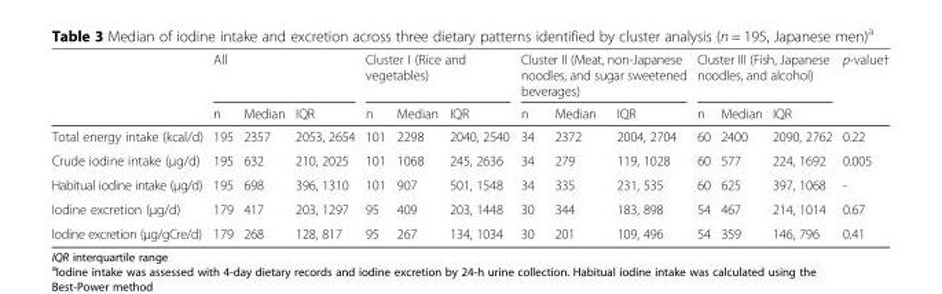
<table><thead><tr><td rowspan="2"></td><td colspan="3">All</td><td colspan="3">Cluster I (Rice and vegetables)</td><td colspan="3">Cluster II (Meat, non-Japanese noodles, and sugar sweetened beverages)</td><td colspan="3">Cluster III (Fish, Japanese noodles, and alcohol)</td><td rowspan="2">p-value†</td></tr><tr><td>n</td><td>Median</td><td>IQR</td><td>n</td><td>Median</td><td>IQR</td><td>n</td><td>Median</td><td>IQR</td><td>n</td><td>Median</td><td>IQR</td></tr></thead><tbody><tr><td>Total energy intake (kcal/d)</td><td>195</td><td>2357</td><td>2053, 2654</td><td>101</td><td>2298</td><td>2040, 2540</td><td>34</td><td>2372</td><td>2004, 2704</td><td>60</td><td>2400</td><td>2090, 2762</td><td>0.22</td></tr><tr><td>Crude iodine intake (μg/d)</td><td>195</td><td>632</td><td>210, 2025</td><td>101</td><td>1068</td><td>245, 2636</td><td>34</td><td>279</td><td>119, 1028</td><td>60</td><td>577</td><td>224, 1692</td><td>0.005</td></tr><tr><td>Habitual iodine intake (μg/d)</td><td>195</td><td>698</td><td>396, 1310</td><td>101</td><td>907</td><td>501, 1548</td><td>34</td><td>335</td><td>231, 535</td><td>60</td><td>625</td><td>397, 1068</td><td>-</td></tr><tr><td>Iodine excretion (μg/d)</td><td>179</td><td>417</td><td>203, 1297</td><td>95</td><td>409</td><td>203, 1448</td><td>30</td><td>344</td><td>183, 898</td><td>54</td><td>467</td><td>214, 1014</td><td>0.67</td></tr><tr><td>Iodine excretion (μg/gCre/d)</td><td>179</td><td>268</td><td>128, 817</td><td>95</td><td>267</td><td>134, 1034</td><td>30</td><td>201</td><td>109, 496</td><td>54</td><td>359</td><td>146, 796</td><td>0.41</td></tr></tbody></table>